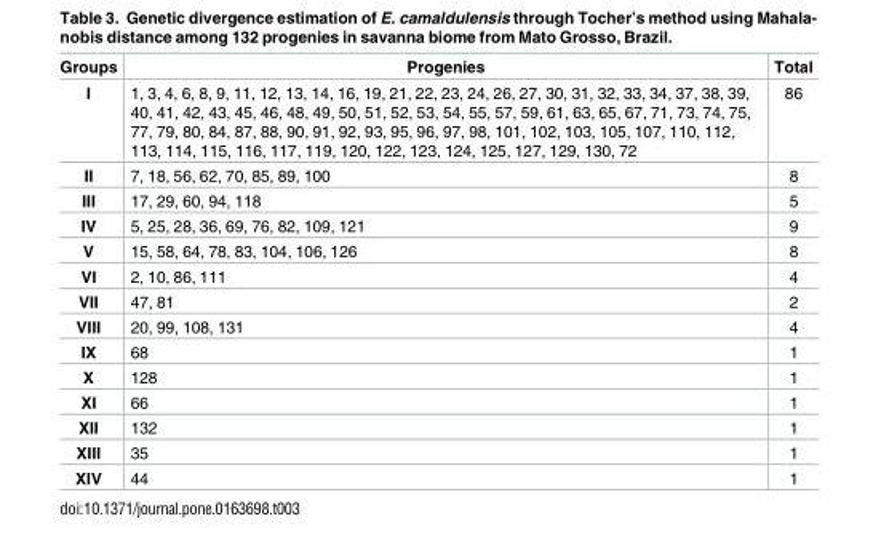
<table><thead><tr><td>Groups</td><td>Progenies</td><td>Total</td></tr></thead><tbody><tr><td>I</td><td>1, 3, 4, 6, 8, 9, 11, 12, 13, 14, 16, 19, 21, 22, 23, 24, 26, 27, 30, 31, 32, 33, 34, 37, 38, 39, 40, 41, 42, 43, 45, 46, 48, 49, 50, 51, 52, 53, 54, 55, 57, 59, 61, 63, 65, 67, 71, 73, 74, 75, 77, 79, 80, 84, 87, 88, 90, 91, 92, 93, 95, 96, 97, 98, 101, 102, 103, 105, 107, 110, 112, 113, 114, 115, 116, 117, 119, 120, 122, 123, 124, 125, 127, 129, 130, 72</td><td>86</td></tr><tr><td>II</td><td>7, 18, 56, 62, 70, 85, 89, 100</td><td>8</td></tr><tr><td>III</td><td>17, 29, 60, 94, 118</td><td>5</td></tr><tr><td>IV</td><td>5, 25, 28, 36, 69, 76, 82, 109, 121</td><td>9</td></tr><tr><td>V</td><td>15, 58, 64, 78, 83, 104, 106, 126</td><td>8</td></tr><tr><td>VI</td><td>2, 10, 86, 111</td><td>4</td></tr><tr><td>VII</td><td>47, 81</td><td>2</td></tr><tr><td>VIII</td><td>20, 99, 108, 131</td><td>4</td></tr><tr><td>IX</td><td>68</td><td>1</td></tr><tr><td>X</td><td>128</td><td>1</td></tr><tr><td>XI</td><td>66</td><td>1</td></tr><tr><td>XII</td><td>132</td><td>1</td></tr><tr><td>XIII</td><td>35</td><td>1</td></tr><tr><td>XIV</td><td>44</td><td>1</td></tr></tbody></table>